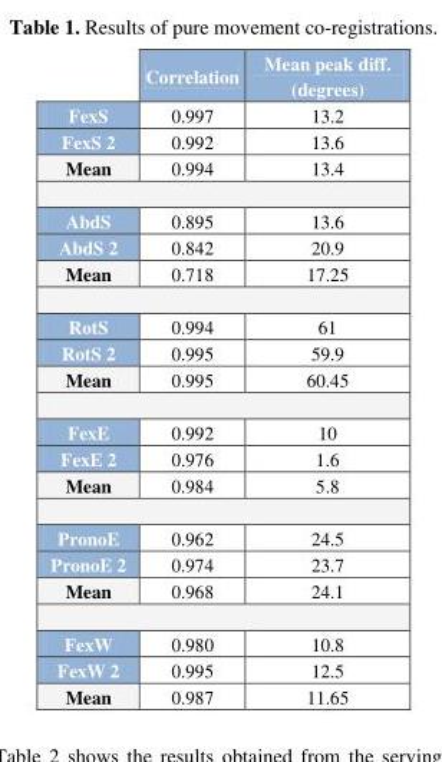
<table><thead><tr><td></td><td>Correlation</td><td>Mean peak diff. (degrees)</td></tr></thead><tbody><tr><td>FexS</td><td>0.997</td><td>13.2</td></tr><tr><td>FexS 2</td><td>0.992</td><td>13.6</td></tr><tr><td>Mean</td><td>0.994</td><td>13.4</td></tr><tr><td>AbdS</td><td>0.895</td><td>13.6</td></tr><tr><td>AbdS 2</td><td>0.842</td><td>20.9</td></tr><tr><td>Mean</td><td>0.718</td><td>17.25</td></tr><tr><td>RotS</td><td>0.994</td><td>61</td></tr><tr><td>RotS 2</td><td>0.995</td><td>59.9</td></tr><tr><td>Mean</td><td>0.995</td><td>60.45</td></tr><tr><td>FexE</td><td>0.992</td><td>10</td></tr><tr><td>FexE 2</td><td>0.976</td><td>1.6</td></tr><tr><td>Mean</td><td>0.984</td><td>5.8</td></tr><tr><td>PronoE</td><td>0.962</td><td>24.5</td></tr><tr><td>PronoE 2</td><td>0.974</td><td>23.7</td></tr><tr><td>Mean</td><td>0.968</td><td>24.1</td></tr><tr><td>FexW</td><td>0.980</td><td>10.8</td></tr><tr><td>FexW 2</td><td>0.995</td><td>12.5</td></tr><tr><td>Mean</td><td>0.987</td><td>11.65</td></tr></tbody></table>